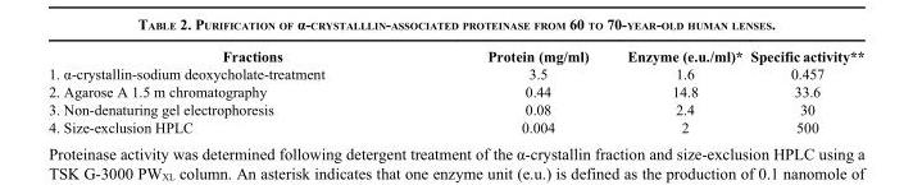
<table><thead><tr><td>Fractions</td><td>Protein (mg/ml)</td><td>Enzyme (e.u./ml)*</td><td>Specific activity**</td></tr></thead><tbody><tr><td>1. α-crystallin-sodium deoxycholate-treatment</td><td>3.5</td><td>1.6</td><td>0.457</td></tr><tr><td>2. Agarose A 1.5 m chromatography</td><td>0.44</td><td>14.8</td><td>33.6</td></tr><tr><td>3. Non-denaturing gel electrophoresis</td><td>0.08</td><td>2.4</td><td>30</td></tr><tr><td>4. Size-exclusion HPLC</td><td>0.004</td><td>2</td><td>500</td></tr></tbody></table>